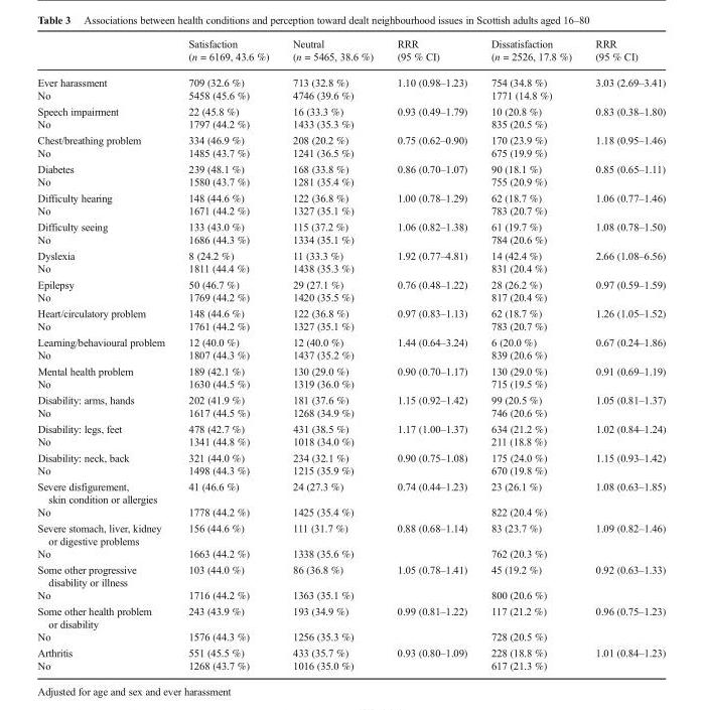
<table><thead><tr><td></td><td>Satisfaction (n = 6169, 43.6 %)</td><td>Neutral (n = 5465, 38.6 %)</td><td>RRR (95 % CI)</td><td>Dissatisfaction (n = 2526, 17.8 %)</td><td>RRR (95 % CI)</td></tr></thead><tbody><tr><td>Ever harassment</td><td>709 (32.6 %)</td><td>713 (32.8 %)</td><td rowspan="2">1.10 (0.98–1.23)</td><td>754 (34.8 %)</td><td rowspan="2">3.03 (2.69–3.41)</td></tr><tr><td>No</td><td>5458 (45.6 %)</td><td>4746 (39.6 %)</td><td>1771 (14.8 %)</td></tr><tr><td>Speech impairment</td><td>22 (45.8 %)</td><td>16 (33.3 %)</td><td rowspan="2">0.93 (0.49–1.79)</td><td>10 (20.8 %)</td><td rowspan="2">0.83 (0.38–1.80)</td></tr><tr><td>No</td><td>1797 (44.2 %)</td><td>1433 (35.3 %)</td><td>835 (20.5 %)</td></tr><tr><td>Chest/breathing problem</td><td>334 (46.9 %)</td><td>208 (20.2 %)</td><td rowspan="2">0.75 (0.62–0.90)</td><td>170 (23.9 %)</td><td rowspan="2">1.18 (0.95–1.46)</td></tr><tr><td>No</td><td>1485 (43.7 %)</td><td>1241 (36.5 %)</td><td>675 (19.9 %)</td></tr><tr><td>Diabetes</td><td>239 (48.1 %)</td><td>168 (33.8 %)</td><td rowspan="2">0.86 (0.70–1.07)</td><td>90 (18.1 %)</td><td rowspan="2">0.85 (0.65–1.11)</td></tr><tr><td>No</td><td>1580 (43.7 %)</td><td>1281 (35.4 %)</td><td>755 (20.9 %)</td></tr><tr><td>Difficulty hearing</td><td>148 (44.6 %)</td><td>122 (36.8 %)</td><td rowspan="2">1.00 (0.78–1.29)</td><td>62 (18.7 %)</td><td rowspan="2">1.06 (0.77–1.46)</td></tr><tr><td>No</td><td>1671 (44.2 %)</td><td>1327 (35.1 %)</td><td>783 (20.7 %)</td></tr><tr><td>Difficulty seeing</td><td>133 (43.0 %)</td><td>115 (37.2 %)</td><td rowspan="2">1.06 (0.82–1.38)</td><td>61 (19.7 %)</td><td rowspan="2">1.08 (0.78–1.50)</td></tr><tr><td>No</td><td>1686 (44.3 %)</td><td>1334 (35.1 %)</td><td>784 (20.6 %)</td></tr><tr><td>Dyslexia</td><td>8 (24.2 %)</td><td>11 (33.3 %)</td><td rowspan="2">1.92 (0.77–4.81)</td><td>14 (42.4 %)</td><td rowspan="2">2.66 (1.08–6.56)</td></tr><tr><td>No</td><td>1811 (44.4 %)</td><td>1438 (35.3 %)</td><td>831 (20.4 %)</td></tr><tr><td>Epilepsy</td><td>50 (46.7 %)</td><td>29 (27.1 %)</td><td rowspan="2">0.76 (0.48–1.22)</td><td>28 (26.2 %)</td><td rowspan="2">0.97 (0.59–1.59)</td></tr><tr><td>No</td><td>1769 (44.2 %)</td><td>1420 (35.5 %)</td><td>817 (20.4 %)</td></tr><tr><td>Heart/circulatory problem</td><td>148 (44.6 %)</td><td>122 (36.8 %)</td><td rowspan="2">0.97 (0.83–1.13)</td><td>62 (18.7 %)</td><td rowspan="2">1.26 (1.05–1.52)</td></tr><tr><td>No</td><td>1761 (44.2 %)</td><td>1327 (35.1 %)</td><td>783 (20.7 %)</td></tr><tr><td>Learning/behavioural problem</td><td>12 (40.0 %)</td><td>12 (40.0 %)</td><td rowspan="2">1.44 (0.64–3.24)</td><td>6 (20.0 %)</td><td rowspan="2">0.67 (0.24–1.86)</td></tr><tr><td>No</td><td>1807 (44.3 %)</td><td>1437 (35.2 %)</td><td>839 (20.6 %)</td></tr><tr><td>Mental health problem</td><td>189 (42.1 %)</td><td>130 (29.0 %)</td><td rowspan="2">0.90 (0.70–1.17)</td><td>130 (29.0 %)</td><td rowspan="2">0.91 (0.69–1.19)</td></tr><tr><td>No</td><td>1630 (44.5 %)</td><td>1319 (36.0 %)</td><td>715 (19.5 %)</td></tr><tr><td>Disability: arms, hands</td><td>202 (41.9 %)</td><td>181 (37.6 %)</td><td rowspan="2">1.15 (0.92–1.42)</td><td>99 (20.5 %)</td><td rowspan="2">1.05 (0.81–1.37)</td></tr><tr><td>No</td><td>1617 (44.5 %)</td><td>1268 (34.9 %)</td><td>746 (20.6 %)</td></tr><tr><td>Disability: legs, feet</td><td>478 (42.7 %)</td><td>431 (38.5 %)</td><td rowspan="2">1.17 (1.00–1.37)</td><td>634 (21.2 %)</td><td rowspan="2">1.02 (0.84–1.24)</td></tr><tr><td>No</td><td>1341 (44.8 %)</td><td>1018 (34.0 %)</td><td>211 (18.8 %)</td></tr><tr><td>Disability: neck, back</td><td>321 (44.0 %)</td><td>234 (32.1 %)</td><td rowspan="2">0.90 (0.75–1.08)</td><td>175 (24.0 %)</td><td rowspan="2">1.15 (0.93–1.42)</td></tr><tr><td>No</td><td>1498 (44.3 %)</td><td>1215 (35.9 %)</td><td>670 (19.8 %)</td></tr><tr><td>Severe disfigurement, skin condition or allergies</td><td>41 (46.6 %)</td><td>24 (27.3 %)</td><td rowspan="2">0.74 (0.44–1.23)</td><td>23 (26.1 %)</td><td rowspan="2">1.08 (0.63–1.85)</td></tr><tr><td>No</td><td>1778 (44.2 %)</td><td>1425 (35.4 %)</td><td>822 (20.4 %)</td></tr><tr><td>Severe stomach, liver, kidney or digestive problems</td><td>156 (44.6 %)</td><td>111 (31.7 %)</td><td rowspan="2">0.88 (0.68–1.14)</td><td>83 (23.7 %)</td><td rowspan="2">1.09 (0.82–1.46)</td></tr><tr><td>No</td><td>1663 (44.2 %)</td><td>1338 (35.6 %)</td><td>762 (20.3 %)</td></tr><tr><td>Some other progressive disability or illness</td><td>103 (44.0 %)</td><td>86 (36.8 %)</td><td rowspan="2">1.05 (0.78–1.41)</td><td>45 (19.2 %)</td><td rowspan="2">0.92 (0.63–1.33)</td></tr><tr><td>No</td><td>1716 (44.2 %)</td><td>1363 (35.1 %)</td><td>800 (20.6 %)</td></tr><tr><td>Some other health problem or disability</td><td>243 (43.9 %)</td><td>193 (34.9 %)</td><td rowspan="2">0.99 (0.81–1.22)</td><td>117 (21.2 %)</td><td rowspan="2">0.96 (0.75–1.23)</td></tr><tr><td>No</td><td>1576 (44.3 %)</td><td>1256 (35.3 %)</td><td>728 (20.5 %)</td></tr><tr><td>Arthritis</td><td>551 (45.5 %)</td><td>433 (35.7 %)</td><td rowspan="2">0.93 (0.80–1.09)</td><td>228 (18.8 %)</td><td rowspan="2">1.01 (0.84–1.23)</td></tr><tr><td>No</td><td>1268 (43.7 %)</td><td>1016 (35.0 %)</td><td>617 (21.3 %)</td></tr></tbody></table>